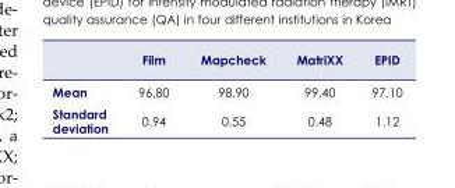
<table><thead><tr><td></td><td>Film</td><td>Mapcheck</td><td>MatriXX</td><td>EPID</td></tr></thead><tbody><tr><td>Mean</td><td>96.80</td><td>98.90</td><td>99.40</td><td>97.10</td></tr><tr><td>Standard deviation</td><td>0.94</td><td>0.55</td><td>0.48</td><td>1.12</td></tr></tbody></table>